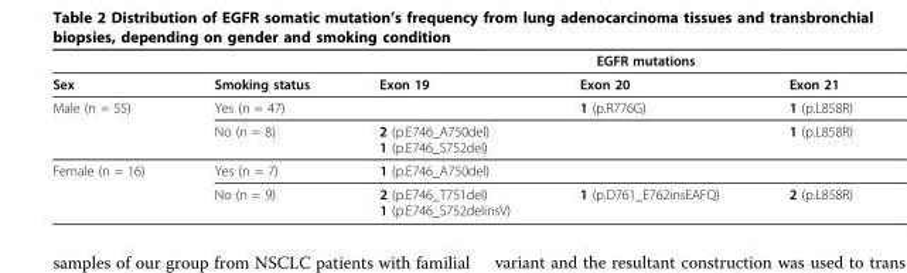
<table><thead><tr><td rowspan="2">Sex</td><td rowspan="2">Smoking status</td><td colspan="3">EGFR mutations</td></tr><tr><td>Exon 19</td><td>Exon 20</td><td>Exon 21</td></tr></thead><tbody><tr><td rowspan="2">Male (n = 55)</td><td>Yes (n = 47)</td><td></td><td>1 (p.R776G)</td><td>1 (p.L858R)</td></tr><tr><td>No (n = 8)</td><td>2 (p.E746_A750del) 1 (p.E746_S752del)</td><td></td><td>1 (p.L858R)</td></tr><tr><td rowspan="2">Female (n = 16)</td><td>Yes (n = 7)</td><td>1 (p.E746_A750del)</td><td></td><td></td></tr><tr><td>No (n = 9)</td><td>2 (p.E746_T751del) 1 (p.E746_S752delinsV)</td><td>1 (p.D761_E762insEAFQ)</td><td>2 (p.L858R)</td></tr></tbody></table>